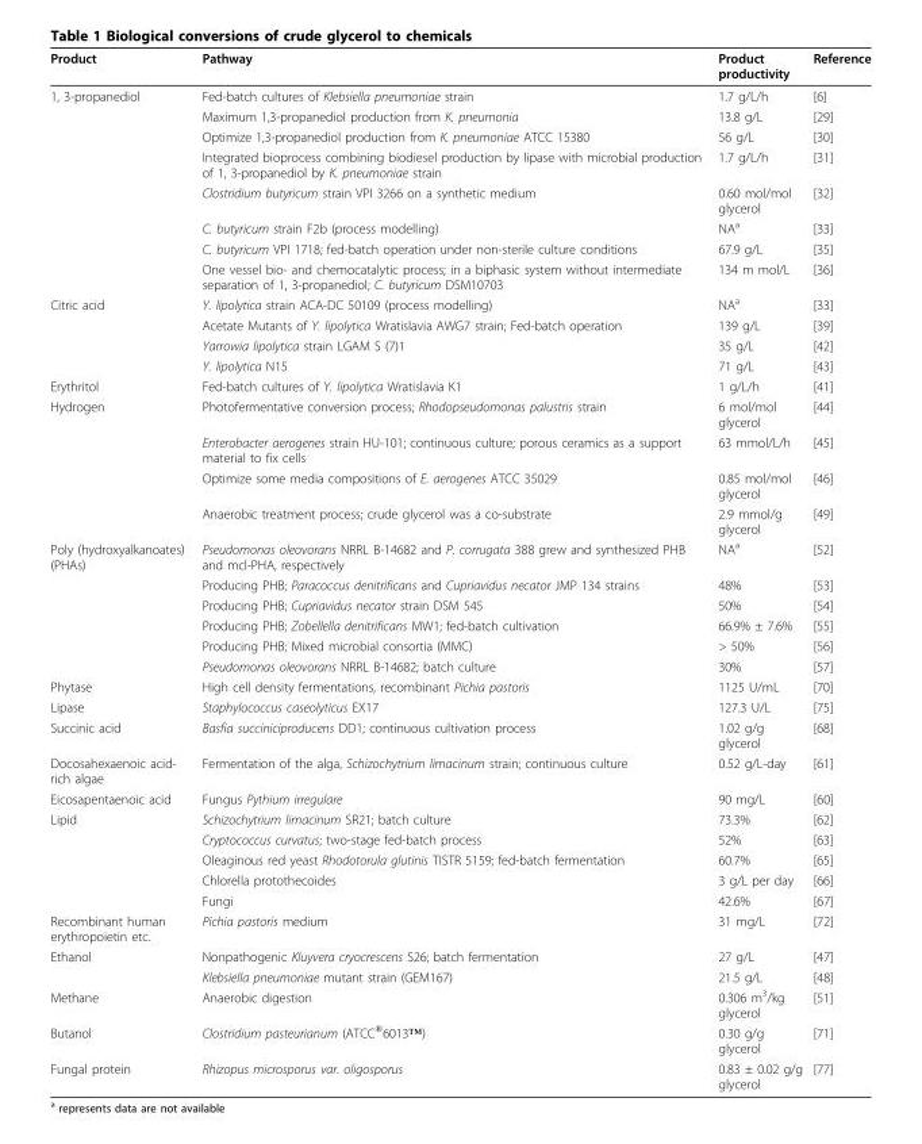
<table><thead><tr><td>Product</td><td>Pathway</td><td>Product productivity</td><td>Reference</td></tr></thead><tbody><tr><td rowspan="8">1, 3-propanediol</td><td>Fed-batch cultures of Klebsiella pneumoniae strain</td><td>1.7 g/L/h</td><td>[6]</td></tr><tr><td>Maximum 1,3-propanediol production from K. pneumonia</td><td>13.8 g/L</td><td>[29]</td></tr><tr><td>Optimize 1,3-propanediol production from K. pneumoniae ATCC 15380</td><td>56 g/L</td><td>[30]</td></tr><tr><td>Integrated bioprocess combining biodiesel production by lipase with microbial production of 1, 3-propanediol by K. pneumoniae strain</td><td>1.7 g/L/h</td><td>[31]</td></tr><tr><td>Clostridium butyricum strain VPI 3266 on a synthetic medium</td><td>0.60 mol/mol glycerol</td><td>[32]</td></tr><tr><td>C. butyricum strain F2b (process modelling)</td><td>NA<sup>a</sup></td><td>[33]</td></tr><tr><td>C. butyricum VPI 1718; fed-batch operation under non-sterile culture conditions</td><td>67.9 g/L</td><td>[35]</td></tr><tr><td>One vessel bio- and chemocatalytic process; in a biphasic system without intermediate separation of 1, 3-propanediol; C. butyricum DSM10703</td><td>134 m mol/L</td><td>[36]</td></tr><tr><td rowspan="4">Citric acid</td><td>Y. lipolytica strain ACA-DC 50109 (process modelling)</td><td>NA<sup>a</sup></td><td>[33]</td></tr><tr><td>Acetate Mutants of Y. lipolytica Wratislavia AWG7 strain; Fed-batch operation</td><td>139 g/L</td><td>[39]</td></tr><tr><td>Yarrowia lipolytica strain LGAM S (7)1</td><td>35 g/L</td><td>[42]</td></tr><tr><td>Y. lipolytica N15</td><td>71 g/L</td><td>[43]</td></tr><tr><td>Erythritol</td><td>Fed-batch cultures of Y. lipolytica Wratislavia K1</td><td>1 g/L/h</td><td>[41]</td></tr><tr><td rowspan="4">Hydrogen</td><td>Photofermentative conversion process; Rhodopseudomonas palustris strain</td><td>6 mol/mol glycerol</td><td>[44]</td></tr><tr><td>Enterobacter aerogenes strain HU-101; continuous culture; porous ceramics as a support material to fix cells</td><td>63 mmol/L/h</td><td>[45]</td></tr><tr><td>Optimize some media compositions of E. aerogenes ATCC 35029</td><td>0.85 mol/mol glycerol</td><td>[46]</td></tr><tr><td>Anaerobic treatment process; crude glycerol was a co-substrate</td><td>2.9 mmol/g glycerol</td><td>[49]</td></tr><tr><td rowspan="6">Poly (hydroxyalkanoates) (PHAs)</td><td>Pseudomonas oleovorans NRRL B-14682 and P. corrugata 388 grew and synthesized PHB and mcl-PHA, respectively</td><td>NA<sup>a</sup></td><td>[52]</td></tr><tr><td>Producing PHB; Paracoccus denitrificans and Cupriavidus necator JMP 134 strains</td><td>48%</td><td>[53]</td></tr><tr><td>Producing PHB; Cupriavidus necator strain DSM 545</td><td>50%</td><td>[54]</td></tr><tr><td>Producing PHB; Zobellella denitrificans MW1; fed-batch cultivation</td><td>66.9% ± 7.6%</td><td>[55]</td></tr><tr><td>Producing PHB; Mixed microbial consortia (MMC)</td><td>&gt; 50%</td><td>[56]</td></tr><tr><td>Pseudomonas oleovorans NRRL B-14682; batch culture</td><td>30%</td><td>[57]</td></tr><tr><td>Phytase</td><td>High cell density fermentations, recombinant Pichia pastoris</td><td>1125 U/mL</td><td>[70]</td></tr><tr><td>Lipase</td><td>Staphylococcus caseolyticus EX17</td><td>127.3 U/L</td><td>[75]</td></tr><tr><td>Succinic acid</td><td>Basfia succiniciproducens DD1; continuous cultivation process</td><td>1.02 g/g glycerol</td><td>[68]</td></tr><tr><td>Docosahexaenoic acid- rich algae</td><td>Fermentation of the alga, Schizochytrium limacinum strain; continuous culture</td><td>0.52 g/L-day</td><td>[61]</td></tr><tr><td>Eicosapentaenoic acid</td><td>Fungus Pythium irregulare</td><td>90 mg/L</td><td>[60]</td></tr><tr><td rowspan="5">Lipid</td><td>Schizochytrium limacinum SR21; batch culture</td><td>73.3%</td><td>[62]</td></tr><tr><td>Cryptococcus curvatus; two-stage fed-batch process</td><td>52%</td><td>[63]</td></tr><tr><td>Oleaginous red yeast Rhodotorula glutinis TISTR 5159; fed-batch fermentation</td><td>60.7%</td><td>[65]</td></tr><tr><td>Chlorella protothecoides</td><td>3 g/L per day</td><td>[66]</td></tr><tr><td>Fungi</td><td>42.6%</td><td>[67]</td></tr><tr><td>Recombinant human erythropoietin etc.</td><td>Pichia pastoris medium</td><td>31 mg/L</td><td>[72]</td></tr><tr><td rowspan="2">Ethanol</td><td>Nonpathogenic Kluyvera cryocrescens S26; batch fermentation</td><td>27 g/L</td><td>[47]</td></tr><tr><td>Klebsiella pneumoniae mutant strain (GEM167)</td><td>21.5 g/L</td><td>[48]</td></tr><tr><td>Methane</td><td>Anaerobic digestion</td><td>0.306 m<sup>3</sup>/kg glycerol</td><td>[51]</td></tr><tr><td>Butanol</td><td>Clostridium pasteurianum (ATCC<sup>®</sup>6013™)</td><td>0.30 g/g glycerol</td><td>[71]</td></tr><tr><td>Fungal protein</td><td>Rhizopus microsporus var. oligosporus</td><td>0.83 ± 0.02 g/g glycerol</td><td>[77]</td></tr></tbody></table>